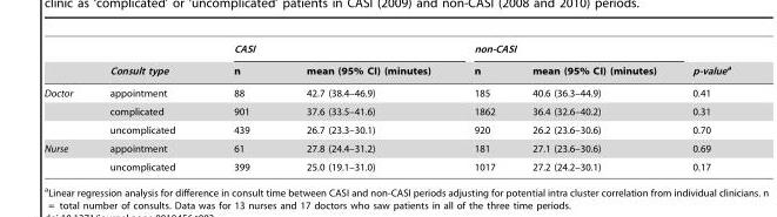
<table><thead><tr><td rowspan="2"></td><td rowspan="2">Consult type</td><td colspan="2">CASI</td><td colspan="2">non-CASI</td><td rowspan="2">p-valuea</td></tr><tr><td>n</td><td>mean (95% CI) (minutes)</td><td>n</td><td>mean (95% CI) (minutes)</td></tr></thead><tbody><tr><td rowspan="3">Doctor</td><td>appointment</td><td>88</td><td>42.7 (38.4–46.9)</td><td>185</td><td>40.6 (36.3–44.9)</td><td>0.41</td></tr><tr><td>complicated</td><td>901</td><td>37.6 (33.5–41.6)</td><td>1862</td><td>36.4 (32.6–40.2)</td><td>0.31</td></tr><tr><td>uncomplicated</td><td>439</td><td>26.7 (23.3–30.1)</td><td>920</td><td>26.2 (23.6–30.6)</td><td>0.70</td></tr><tr><td rowspan="2">Nurse</td><td>appointment</td><td>61</td><td>27.8 (24.4–31.2)</td><td>181</td><td>27.1 (23.6–30.6)</td><td>0.69</td></tr><tr><td>uncomplicated</td><td>399</td><td>25.0 (19.1–31.0)</td><td>1017</td><td>27.2 (24.2–30.1)</td><td>0.17</td></tr></tbody></table>